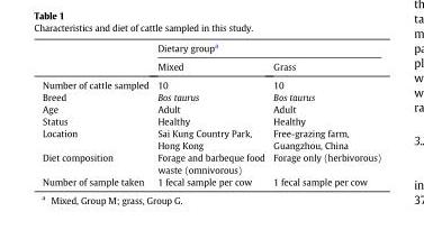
<table><thead><tr><td rowspan="2"></td><td colspan="2">Dietary group<sup>a</sup></td></tr><tr><td>Mixed</td><td>Grass</td></tr></thead><tbody><tr><td>Number of cattle sampled</td><td>10</td><td>10</td></tr><tr><td>Breed</td><td>Bos taurus</td><td>Bos taurus</td></tr><tr><td>Age</td><td>Adult</td><td>Adult</td></tr><tr><td>Status</td><td>Healthy</td><td>Healthy</td></tr><tr><td>Location</td><td>Sai Kung Country Park, Hong Kong</td><td>Free-grazing farm, Guangzhou, China</td></tr><tr><td>Diet composition</td><td>Forage and barbeque food waste (omnivorous)</td><td>Forage only (herbivorous)</td></tr><tr><td>Number of sample taken</td><td>1 fecal sample per cow</td><td>1 fecal sample per cow</td></tr></tbody></table>